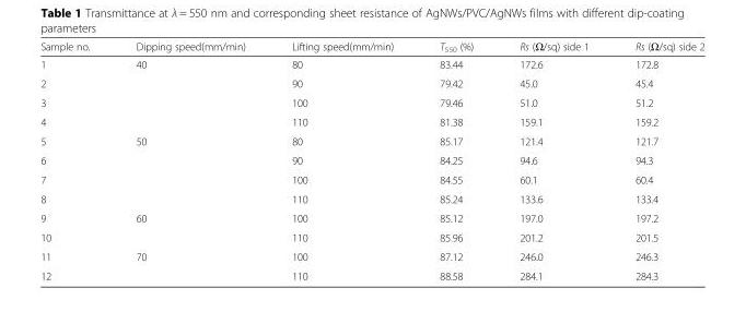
<table><thead><tr><td>Sample no.</td><td>Dipping speed(mm/min)</td><td>Lifting speed(mm/min)</td><td>T<sub>550</sub> (%)</td><td>Rs (Ω/sq) side 1</td><td>Rs (Ω/sq) side 2</td></tr></thead><tbody><tr><td>1</td><td rowspan="4">40</td><td>80</td><td>83.44</td><td>172.6</td><td>172.8</td></tr><tr><td>2</td><td>90</td><td>79.42</td><td>45.0</td><td>45.4</td></tr><tr><td>3</td><td>100</td><td>79.46</td><td>51.0</td><td>51.2</td></tr><tr><td>4</td><td>110</td><td>81.38</td><td>159.1</td><td>159.2</td></tr><tr><td>5</td><td rowspan="4">50</td><td>80</td><td>85.17</td><td>121.4</td><td>121.7</td></tr><tr><td>6</td><td>90</td><td>84.25</td><td>94.6</td><td>94.3</td></tr><tr><td>7</td><td>100</td><td>84.55</td><td>60.1</td><td>60.4</td></tr><tr><td>8</td><td>110</td><td>85.24</td><td>133.6</td><td>133.4</td></tr><tr><td>9</td><td rowspan="2">60</td><td>100</td><td>85.12</td><td>197.0</td><td>197.2</td></tr><tr><td>10</td><td>110</td><td>85.96</td><td>201.2</td><td>201.5</td></tr><tr><td>11</td><td rowspan="2">70</td><td>100</td><td>87.12</td><td>246.0</td><td>246.3</td></tr><tr><td>12</td><td>110</td><td>88.58</td><td>284.1</td><td>284.3</td></tr></tbody></table>